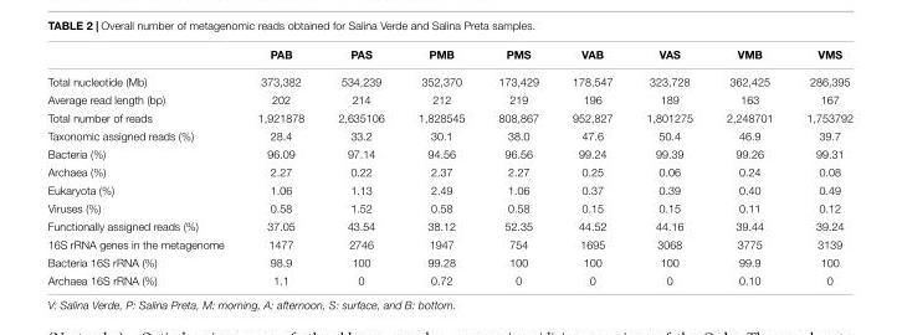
<table><thead><tr><td></td><td>PAB</td><td>PAS</td><td>PMB</td><td>PMS</td><td>VAB</td><td>VAS</td><td>VMB</td><td>VMS</td></tr></thead><tbody><tr><td>Total nucleotide (Mb)</td><td>373,382</td><td>534,239</td><td>352,370</td><td>173,429</td><td>178,547</td><td>323,728</td><td>362,425</td><td>286,395</td></tr><tr><td>Average read length (bp)</td><td>202</td><td>214</td><td>212</td><td>219</td><td>196</td><td>189</td><td>163</td><td>167</td></tr><tr><td>Total number of reads</td><td>1,921878</td><td>2,635106</td><td>1,828545</td><td>808,867</td><td>952,827</td><td>1,801275</td><td>2,248701</td><td>1,753792</td></tr><tr><td>Taxonomic assigned reads (%)</td><td>28.4</td><td>33.2</td><td>30.1</td><td>38.0</td><td>47.6</td><td>50.4</td><td>46.9</td><td>39.7</td></tr><tr><td>Bacteria (%)</td><td>96.09</td><td>97.14</td><td>94.56</td><td>96.56</td><td>99.24</td><td>99.39</td><td>99.26</td><td>99.31</td></tr><tr><td>Archaea (%)</td><td>2.27</td><td>0.22</td><td>2.37</td><td>2.27</td><td>0.25</td><td>0.06</td><td>0.24</td><td>0.08</td></tr><tr><td>Eukaryota (%)</td><td>1.06</td><td>1.13</td><td>2.49</td><td>1.06</td><td>0.37</td><td>0.39</td><td>0.40</td><td>0.49</td></tr><tr><td>Viruses (%)</td><td>0.58</td><td>1.52</td><td>0.58</td><td>0.58</td><td>0.15</td><td>0.15</td><td>0.11</td><td>0.12</td></tr><tr><td>Functionally assigned reads (%)</td><td>37.05</td><td>43.54</td><td>38.12</td><td>52.35</td><td>44.52</td><td>44.16</td><td>39.44</td><td>39.24</td></tr><tr><td>16S rRNA genes in the metagenome</td><td>1477</td><td>2746</td><td>1947</td><td>754</td><td>1695</td><td>3068</td><td>3775</td><td>3139</td></tr><tr><td>Bacteria 16S rRNA (%)</td><td>98.9</td><td>100</td><td>99.28</td><td>100</td><td>100</td><td>100</td><td>99.9</td><td>100</td></tr><tr><td>Archaea 16S rRNA (%)</td><td>1.1</td><td>0</td><td>0.72</td><td>0</td><td>0</td><td>0</td><td>0.10</td><td>0</td></tr></tbody></table>